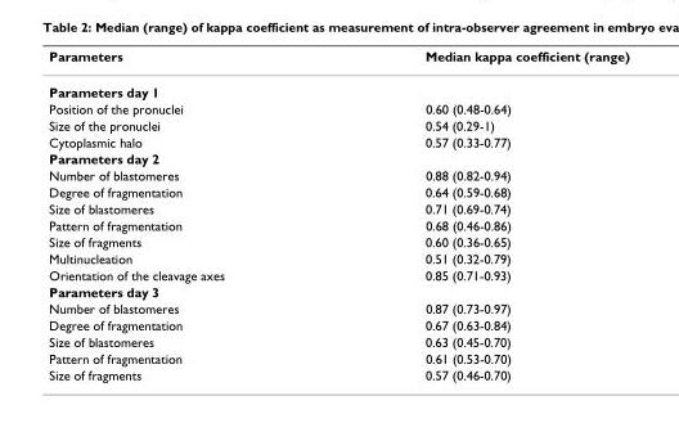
<table><thead><tr><td>Parameters</td><td>Median kappa coefficient (range)</td></tr></thead><tbody><tr><td colspan="2">Parameters day 1</td></tr><tr><td>Position of the pronuclei</td><td>0.60 (0.48-0.64)</td></tr><tr><td>Size of the pronuclei</td><td>0.54 (0.29-1)</td></tr><tr><td>Cytoplasmic halo</td><td>0.57 (0.33-0.77)</td></tr><tr><td colspan="2">Parameters day 2</td></tr><tr><td>Number of blastomeres</td><td>0.88 (0.82-0.94)</td></tr><tr><td>Degree of fragmentation</td><td>0.64 (0.59-0.68)</td></tr><tr><td>Size of blastomeres</td><td>0.71 (0.69-0.74)</td></tr><tr><td>Pattern of fragmentation</td><td>0.68 (0.46-0.86)</td></tr><tr><td>Size of fragments</td><td>0.60 (0.36-0.65)</td></tr><tr><td>Multinucleation</td><td>0.51 (0.32-0.79)</td></tr><tr><td>Orientation of the cleavage axes</td><td>0.85 (0.71-0.93)</td></tr><tr><td colspan="2">Parameters day 3</td></tr><tr><td>Number of blastomeres</td><td>0.87 (0.73-0.97)</td></tr><tr><td>Degree of fragmentation</td><td>0.67 (0.63-0.84)</td></tr><tr><td>Size of blastomeres</td><td>0.63 (0.45-0.70)</td></tr><tr><td>Pattern of fragmentation</td><td>0.61 (0.53-0.70)</td></tr><tr><td>Size of fragments</td><td>0.57 (0.46-0.70)</td></tr></tbody></table>